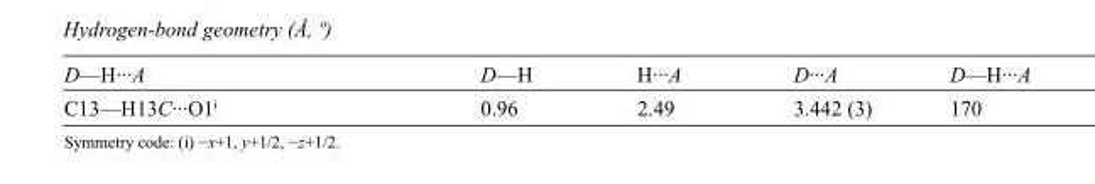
<table><tbody><tr><td>D—H···A</td><td>D—H</td><td>H···A</td><td>D···A</td><td>D—H···A</td></tr><tr><td>C13—H13C···O1<sup>i</sup></td><td>0.96</td><td>2.49</td><td>3.442 (3)</td><td>170</td></tr></tbody></table>